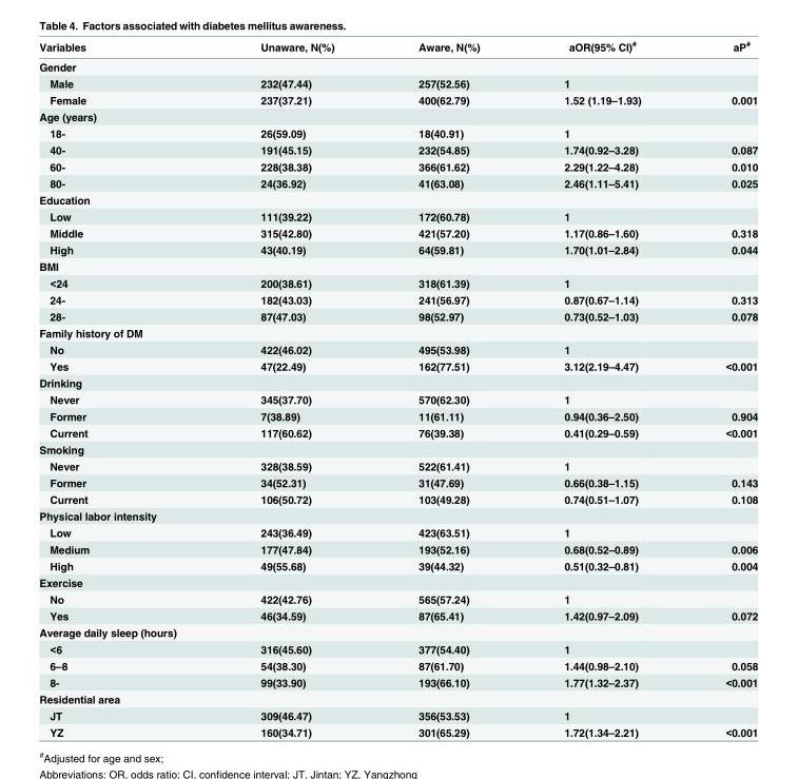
<table><thead><tr><td>Variables</td><td>Unaware, N(%)</td><td>Aware, N(%)</td><td>aOR(95% CI)<sup>#</sup></td><td>aP<sup>#</sup></td></tr></thead><tbody><tr><td colspan="5">Gender</td></tr><tr><td>Male</td><td>232(47.44)</td><td>257(52.56)</td><td>1</td><td></td></tr><tr><td>Female</td><td>237(37.21)</td><td>400(62.79)</td><td>1.52 (1.19–1.93)</td><td>0.001</td></tr><tr><td colspan="5">Age (years)</td></tr><tr><td>18-</td><td>26(59.09)</td><td>18(40.91)</td><td>1</td><td></td></tr><tr><td>40-</td><td>191(45.15)</td><td>232(54.85)</td><td>1.74(0.92–3.28)</td><td>0.087</td></tr><tr><td>60-</td><td>228(38.38)</td><td>366(61.62)</td><td>2.29(1.22–4.28)</td><td>0.010</td></tr><tr><td>80-</td><td>24(36.92)</td><td>41(63.08)</td><td>2.46(1.11–5.41)</td><td>0.025</td></tr><tr><td colspan="5">Education</td></tr><tr><td>Low</td><td>111(39.22)</td><td>172(60.78)</td><td>1</td><td></td></tr><tr><td>Middle</td><td>315(42.80)</td><td>421(57.20)</td><td>1.17(0.86–1.60)</td><td>0.318</td></tr><tr><td>High</td><td>43(40.19)</td><td>64(59.81)</td><td>1.70(1.01–2.84)</td><td>0.044</td></tr><tr><td colspan="5">BMI</td></tr><tr><td>&lt;24</td><td>200(38.61)</td><td>318(61.39)</td><td>1</td><td></td></tr><tr><td>24-</td><td>182(43.03)</td><td>241(56.97)</td><td>0.87(0.67–1.14)</td><td>0.313</td></tr><tr><td>28-</td><td>87(47.03)</td><td>98(52.97)</td><td>0.73(0.52–1.03)</td><td>0.078</td></tr><tr><td colspan="5">Family history of DM</td></tr><tr><td>No</td><td>422(46.02)</td><td>495(53.98)</td><td>1</td><td></td></tr><tr><td>Yes</td><td>47(22.49)</td><td>162(77.51)</td><td>3.12(2.19–4.47)</td><td>&lt;0.001</td></tr><tr><td colspan="5">Drinking</td></tr><tr><td>Never</td><td>345(37.70)</td><td>570(62.30)</td><td>1</td><td></td></tr><tr><td>Former</td><td>7(38.89)</td><td>11(61.11)</td><td>0.94(0.36–2.50)</td><td>0.904</td></tr><tr><td>Current</td><td>117(60.62)</td><td>76(39.38)</td><td>0.41(0.29–0.59)</td><td>&lt;0.001</td></tr><tr><td colspan="5">Smoking</td></tr><tr><td>Never</td><td>328(38.59)</td><td>522(61.41)</td><td>1</td><td></td></tr><tr><td>Former</td><td>34(52.31)</td><td>31(47.69)</td><td>0.66(0.38–1.15)</td><td>0.143</td></tr><tr><td>Current</td><td>106(50.72)</td><td>103(49.28)</td><td>0.74(0.51–1.07)</td><td>0.108</td></tr><tr><td colspan="5">Physical labor intensity</td></tr><tr><td>Low</td><td>243(36.49)</td><td>423(63.51)</td><td>1</td><td></td></tr><tr><td>Medium</td><td>177(47.84)</td><td>193(52.16)</td><td>0.68(0.52–0.89)</td><td>0.006</td></tr><tr><td>High</td><td>49(55.68)</td><td>39(44.32)</td><td>0.51(0.32–0.81)</td><td>0.004</td></tr><tr><td colspan="5">Exercise</td></tr><tr><td>No</td><td>422(42.76)</td><td>565(57.24)</td><td>1</td><td></td></tr><tr><td>Yes</td><td>46(34.59)</td><td>87(65.41)</td><td>1.42(0.97–2.09)</td><td>0.072</td></tr><tr><td colspan="5">Average daily sleep (hours)</td></tr><tr><td>&lt;6</td><td>316(45.60)</td><td>377(54.40)</td><td>1</td><td></td></tr><tr><td>6–8</td><td>54(38.30)</td><td>87(61.70)</td><td>1.44(0.98–2.10)</td><td>0.058</td></tr><tr><td>8-</td><td>99(33.90)</td><td>193(66.10)</td><td>1.77(1.32–2.37)</td><td>&lt;0.001</td></tr><tr><td colspan="5">Residential area</td></tr><tr><td>JT</td><td>309(46.47)</td><td>356(53.53)</td><td>1</td><td></td></tr><tr><td>YZ</td><td>160(34.71)</td><td>301(65.29)</td><td>1.72(1.34–2.21)</td><td>&lt;0.001</td></tr></tbody></table>